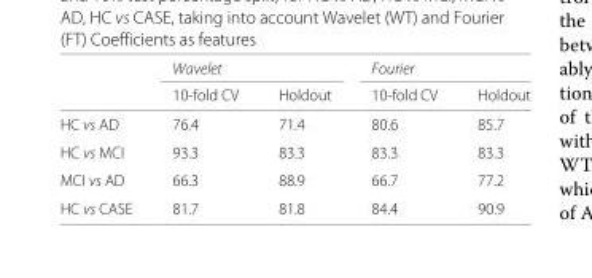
<table><thead><tr><td rowspan="2"></td><td colspan="2">Wavelet</td><td colspan="2">Fourier</td></tr><tr><td>10-fold CV</td><td>Holdout</td><td>10-fold CV</td><td>Holdout</td></tr></thead><tbody><tr><td>HC vs AD</td><td>76.4</td><td>71.4</td><td>80.6</td><td>85.7</td></tr><tr><td>HC vs MCI</td><td>93.3</td><td>83.3</td><td>83.3</td><td>83.3</td></tr><tr><td>MCI vs AD</td><td>66.3</td><td>88.9</td><td>66.7</td><td>77.2</td></tr><tr><td>HC vs CASE</td><td>81.7</td><td>81.8</td><td>84.4</td><td>90.9</td></tr></tbody></table>